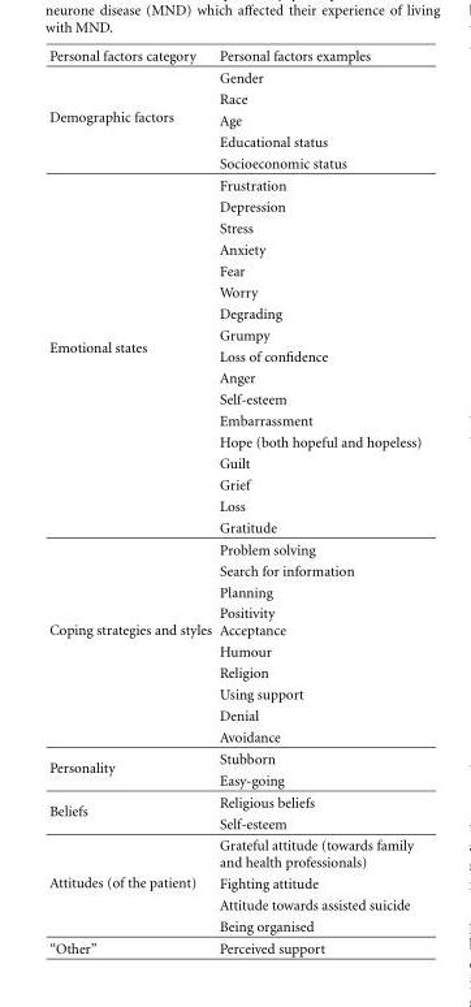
<table><thead><tr><td>Personal factors category</td><td>Personal factors examples</td></tr></thead><tbody><tr><td rowspan="5">Demographic factors</td><td>Gender</td></tr><tr><td>Race</td></tr><tr><td>Age</td></tr><tr><td>Educational status</td></tr><tr><td>Socioeconomic status</td></tr><tr><td rowspan="17">Emotional states</td><td>Frustration</td></tr><tr><td>Depression</td></tr><tr><td>Stress</td></tr><tr><td>Anxiety</td></tr><tr><td>Fear</td></tr><tr><td>Worry</td></tr><tr><td>Degrading</td></tr><tr><td>Grumpy</td></tr><tr><td>Loss of confidence</td></tr><tr><td>Anger</td></tr><tr><td>Self-esteem</td></tr><tr><td>Embarrassment</td></tr><tr><td>Hope (both hopeful and hopeless)</td></tr><tr><td>Guilt</td></tr><tr><td>Grief</td></tr><tr><td>Loss</td></tr><tr><td>Gratitude</td></tr><tr><td rowspan="9">Coping strategies and styles</td><td>Problem solving</td></tr><tr><td>Search for information</td></tr><tr><td>Planning</td></tr><tr><td>Positivity Acceptance</td></tr><tr><td>Humour</td></tr><tr><td>Religion</td></tr><tr><td>Using support</td></tr><tr><td>Denial</td></tr><tr><td>Avoidance</td></tr><tr><td rowspan="2">Personality</td><td>Stubborn</td></tr><tr><td>Easy-going</td></tr><tr><td rowspan="2">Beliefs</td><td>Religious beliefs</td></tr><tr><td>Self-esteem</td></tr><tr><td rowspan="4">Attitudes (of the patient)</td><td>Grateful attitude (towards family and health professionals)</td></tr><tr><td>Fighting attitude</td></tr><tr><td>Attitude towards assisted suicide</td></tr><tr><td>Being organised</td></tr><tr><td>“Other”</td><td>Perceived support</td></tr></tbody></table>